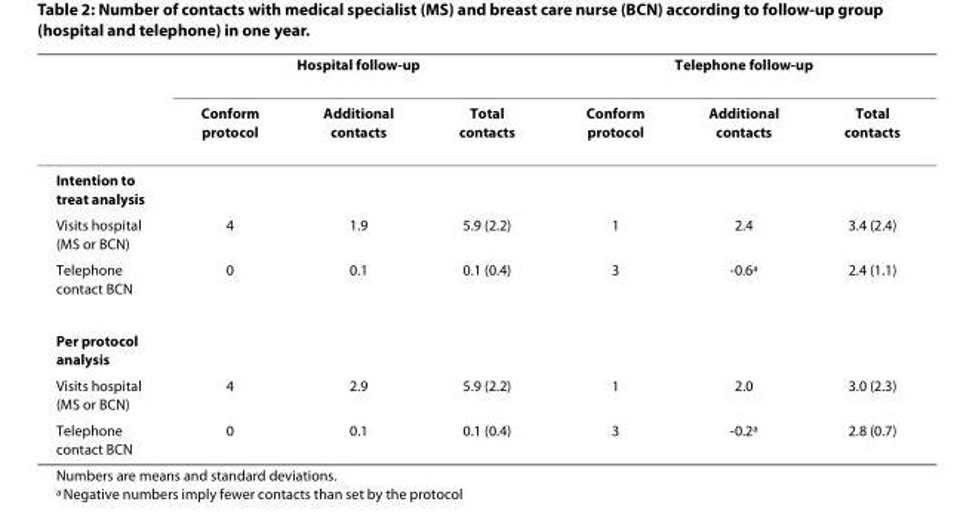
<table><thead><tr><td rowspan="2"></td><td colspan="3">Hospital follow-up</td><td colspan="3">Telephone follow-up</td></tr><tr><td>Conform protocol</td><td>Additional contacts</td><td>Total contacts</td><td>Conform protocol</td><td>Additional contacts</td><td>Total contacts</td></tr></thead><tbody><tr><td colspan="7">Intention to treat analysis</td></tr><tr><td>Visits hospital (MS or BCN)</td><td>4</td><td>1.9</td><td>5.9 (2.2)</td><td>1</td><td>2.4</td><td>3.4 (2.4)</td></tr><tr><td>Telephone contact BCN</td><td>0</td><td>0.1</td><td>0.1 (0.4)</td><td>3</td><td>-0.6<sup>a</sup></td><td>2.4 (1.1)</td></tr><tr><td colspan="7">Per protocol analysis</td></tr><tr><td>Visits hospital (MS or BCN)</td><td>4</td><td>2.9</td><td>5.9 (2.2)</td><td>1</td><td>2.0</td><td>3.0 (2.3)</td></tr><tr><td>Telephone contact BCN</td><td>0</td><td>0.1</td><td>0.1 (0.4)</td><td>3</td><td>-0.2<sup>a</sup></td><td>2.8 (0.7)</td></tr></tbody></table>